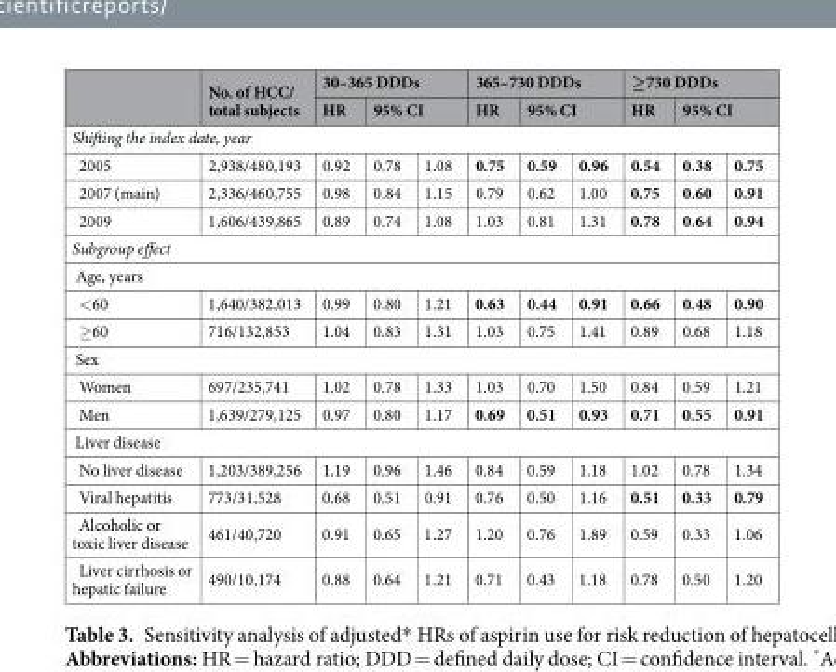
<table><thead><tr><td rowspan="2"></td><td rowspan="2">No. of HCC/ total subjects</td><td colspan="3">30–365 DDDs</td><td colspan="3">365–730 DDDs</td><td colspan="3">≥730 DDDs</td></tr><tr><td>HR</td><td colspan="2">95% CI</td><td>HR</td><td colspan="2">95% CI</td><td>HR</td><td colspan="2">95% CI</td></tr><tr><td colspan="11">Shifting the index date, year</td></tr><tr><td>2005</td><td>2,938/480,193</td><td>0.92</td><td>0.78</td><td>1.08</td><td>0.75</td><td>0.59</td><td>0.96</td><td>0.54</td><td>0.38</td><td>0.75</td></tr></thead><tbody><tr><td>2007 (main)</td><td>2,336/460,755</td><td>0.98</td><td>0.84</td><td>1.15</td><td>0.79</td><td>0.62</td><td>1.00</td><td>0.75</td><td>0.60</td><td>0.91</td></tr><tr><td>2009</td><td>1,606/439,865</td><td>0.89</td><td>0.74</td><td>1.08</td><td>1.03</td><td>0.81</td><td>1.31</td><td>0.78</td><td>0.64</td><td>0.94</td></tr><tr><td colspan="11">Subgroup effect</td></tr><tr><td colspan="11">Age, years</td></tr><tr><td>&lt;60</td><td>1,640/382,013</td><td>0.99</td><td>0.80</td><td>1.21</td><td>0.63</td><td>0.44</td><td>0.91</td><td>0.66</td><td>0.48</td><td>0.90</td></tr><tr><td>≥60</td><td>716/132,853</td><td>1.04</td><td>0.83</td><td>1.31</td><td>1.03</td><td>0.75</td><td>1.41</td><td>0.89</td><td>0.68</td><td>1.18</td></tr><tr><td colspan="11">Sex</td></tr><tr><td>Women</td><td>697/235,741</td><td>1.02</td><td>0.78</td><td>1.33</td><td>1.03</td><td>0.70</td><td>1.50</td><td>0.84</td><td>0.59</td><td>1.21</td></tr><tr><td>Men</td><td>1,639/279,125</td><td>0.97</td><td>0.80</td><td>1.17</td><td>0.69</td><td>0.51</td><td>0.93</td><td>0.71</td><td>0.55</td><td>0.91</td></tr><tr><td colspan="11">Liver disease</td></tr><tr><td>No liver disease</td><td>1,203/389,256</td><td>1.19</td><td>0.96</td><td>1.46</td><td>0.84</td><td>0.59</td><td>1.18</td><td>1.02</td><td>0.78</td><td>1.34</td></tr><tr><td>Viral hepatitis</td><td>773/31,528</td><td>0.68</td><td>0.51</td><td>0.91</td><td>0.76</td><td>0.50</td><td>1.16</td><td>0.51</td><td>0.33</td><td>0.79</td></tr><tr><td>Alcoholic or toxic liver disease</td><td>461/40,720</td><td>0.91</td><td>0.65</td><td>1.27</td><td>1.20</td><td>0.76</td><td>1.89</td><td>0.59</td><td>0.33</td><td>1.06</td></tr><tr><td>Liver cirrhosis or hepatic failure</td><td>490/10,174</td><td>0.88</td><td>0.64</td><td>1.21</td><td>0.71</td><td>0.43</td><td>1.18</td><td>0.78</td><td>0.50</td><td>1.20</td></tr></tbody></table>